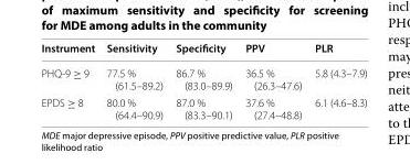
<table><thead><tr><td>Instrument</td><td>Sensitivity</td><td>Specificity</td><td>PPV</td><td>PLR</td></tr></thead><tbody><tr><td>PHQ-9 ≥ 9</td><td>77.5 % (61.5–89.2)</td><td>86.7 % (83.0–89.9)</td><td>36.5 % (26.3–47.6)</td><td>5.8 (4.3–7.9)</td></tr><tr><td>EPDS ≥ 8</td><td>80.0 % (64.4–90.9)</td><td>87.0 % (83.3–90.1)</td><td>37.6 % (27.4–48.8)</td><td>6.1 (4.6–8.3)</td></tr></tbody></table>